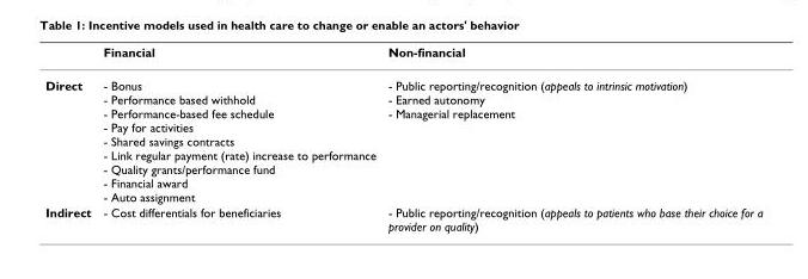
<table><thead><tr><td></td><td>Financial</td><td>Non-financial</td></tr></thead><tbody><tr><td>Direct</td><td>- Bonus - Performance based withhold - Performance-based fee schedule - Pay for activities - Shared savings contracts - Link regular payment (rate) increase to performance - Quality grants/performance fund - Financial award - Auto assignment</td><td>- Public reporting/recognition (appeals to intrinsic motivation) - Earned autonomy - Managerial replacement</td></tr><tr><td>Indirect</td><td>- Cost differentials for beneficiaries</td><td>- Public reporting/recognition (appeals to patients who base their choice for a provider on quality)</td></tr></tbody></table>